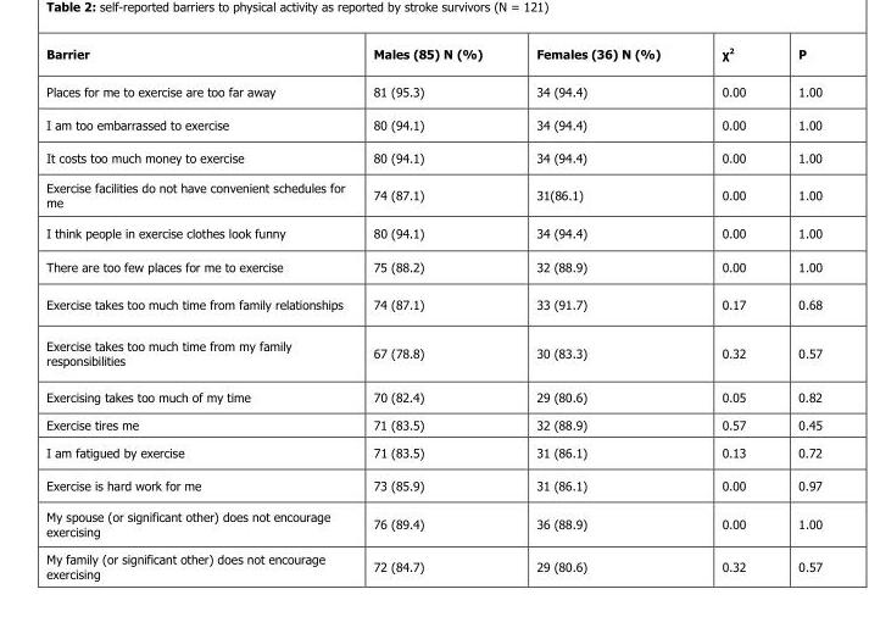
<table><thead><tr><td>Barrier</td><td>Males (85) N (%)</td><td>Females (36) N (%)</td><td>χ<sup>2</sup></td><td>P</td></tr></thead><tbody><tr><td>Places for me to exercise are too far away</td><td>81 (95.3)</td><td>34 (94.4)</td><td>0.00</td><td>1.00</td></tr><tr><td>I am too embarrassed to exercise</td><td>80 (94.1)</td><td>34 (94.4)</td><td>0.00</td><td>1.00</td></tr><tr><td>It costs too much money to exercise</td><td>80 (94.1)</td><td>34 (94.4)</td><td>0.00</td><td>1.00</td></tr><tr><td>Exercise facilities do not have convenient schedules for me</td><td>74 (87.1)</td><td>31(86.1)</td><td>0.00</td><td>1.00</td></tr><tr><td>I think people in exercise clothes look funny</td><td>80 (94.1)</td><td>34 (94.4)</td><td>0.00</td><td>1.00</td></tr><tr><td>There are too few places for me to exercise</td><td>75 (88.2)</td><td>32 (88.9)</td><td>0.00</td><td>1.00</td></tr><tr><td>Exercise takes too much time from family relationships</td><td>74 (87.1)</td><td>33 (91.7)</td><td>0.17</td><td>0.68</td></tr><tr><td>Exercise takes too much time from my family responsibilities</td><td>67 (78.8)</td><td>30 (83.3)</td><td>0.32</td><td>0.57</td></tr><tr><td>Exercising takes too much of my time</td><td>70 (82.4)</td><td>29 (80.6)</td><td>0.05</td><td>0.82</td></tr><tr><td>Exercise tires me</td><td>71 (83.5)</td><td>32 (88.9)</td><td>0.57</td><td>0.45</td></tr><tr><td>I am fatigued by exercise</td><td>71 (83.5)</td><td>31 (86.1)</td><td>0.13</td><td>0.72</td></tr><tr><td>Exercise is hard work for me</td><td>73 (85.9)</td><td>31 (86.1)</td><td>0.00</td><td>0.97</td></tr><tr><td>My spouse (or significant other) does not encourage exercising</td><td>76 (89.4)</td><td>36 (88.9)</td><td>0.00</td><td>1.00</td></tr><tr><td>My family (or significant other) does not encourage exercising</td><td>72 (84.7)</td><td>29 (80.6)</td><td>0.32</td><td>0.57</td></tr></tbody></table>